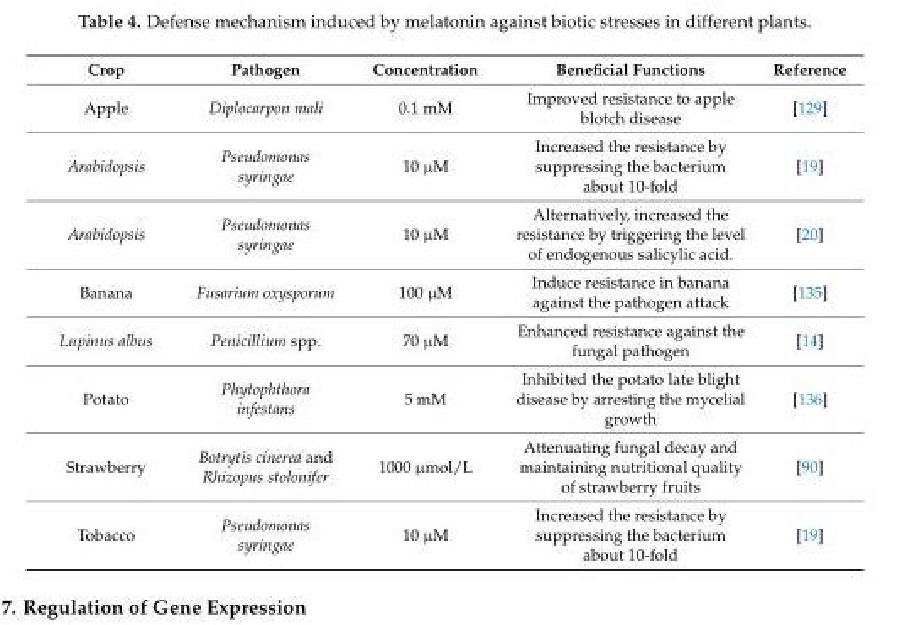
<table><thead><tr><td>Crop</td><td>Pathogen</td><td>Concentration</td><td>Beneficial Functions</td><td>Reference</td></tr></thead><tbody><tr><td>Apple</td><td>Diplocarpon mali</td><td>0.1 mM</td><td>Improved resistance to apple blotch disease</td><td>[129]</td></tr><tr><td>Arabidopsis</td><td>Pseudomonas syringae</td><td>10 µM</td><td>Increased the resistance by suppressing the bacterium about 10-fold</td><td>[19]</td></tr><tr><td>Arabidopsis</td><td>Pseudomonas syringae</td><td>10 µM</td><td>Alternatively, increased the resistance by triggering the level of endogenous salicylic acid.</td><td>[20]</td></tr><tr><td>Banana</td><td>Fusarium oxysporum</td><td>100 µM</td><td>Induce resistance in banana against the pathogen attack</td><td>[135]</td></tr><tr><td>Lupinus albus</td><td>Penicillium spp.</td><td>70 µM</td><td>Enhanced resistance against the fungal pathogen</td><td>[14]</td></tr><tr><td>Potato</td><td>Phytophthora infestans</td><td>5 mM</td><td>Inhibited the potato late blight disease by arresting the mycelial growth</td><td>[136]</td></tr><tr><td>Strawberry</td><td>Botrytis cinerea and Rhizopus stolonifer</td><td>1000 µmol/L</td><td>Attenuating fungal decay and maintaining nutritional quality of strawberry fruits</td><td>[90]</td></tr><tr><td>Tobacco</td><td>Pseudomonas syringae</td><td>10 µM</td><td>Increased the resistance by suppressing the bacterium about 10-fold</td><td>[19]</td></tr></tbody></table>